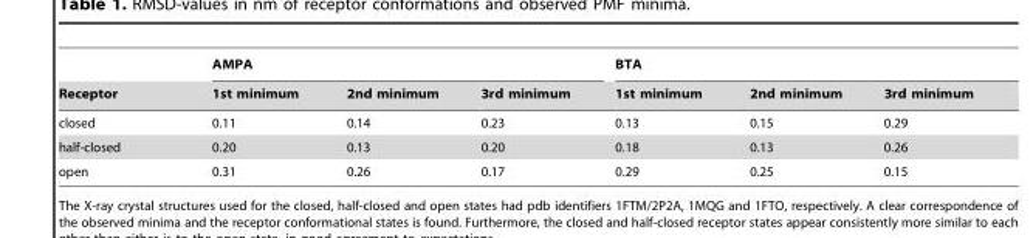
<table><thead><tr><td rowspan="2">Receptor</td><td colspan="3">AMPA</td><td colspan="3">BTA</td></tr><tr><td>1st minimum</td><td>2nd minimum</td><td>3rd minimum</td><td>1st minimum</td><td>2nd minimum</td><td>3rd minimum</td></tr></thead><tbody><tr><td>closed</td><td>0.11</td><td>0.14</td><td>0.23</td><td>0.13</td><td>0.15</td><td>0.29</td></tr><tr><td>half-closed</td><td>0.20</td><td>0.13</td><td>0.20</td><td>0.18</td><td>0.13</td><td>0.26</td></tr><tr><td>open</td><td>0.31</td><td>0.26</td><td>0.17</td><td>0.29</td><td>0.25</td><td>0.15</td></tr></tbody></table>